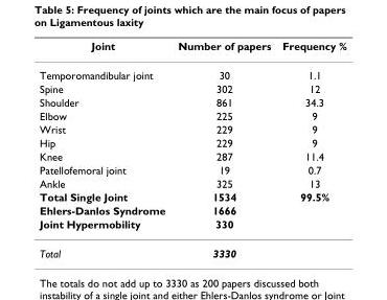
<table><thead><tr><td>Joint</td><td>Number of papers</td><td>Frequency %</td></tr></thead><tbody><tr><td>Temporomandibular joint</td><td>30</td><td>1.1</td></tr><tr><td>Spine</td><td>302</td><td>12</td></tr><tr><td>Shoulder</td><td>861</td><td>34.3</td></tr><tr><td>Elbow</td><td>225</td><td>9</td></tr><tr><td>Wrist</td><td>229</td><td>9</td></tr><tr><td>Hip</td><td>229</td><td>9</td></tr><tr><td>Knee</td><td>287</td><td>11.4</td></tr><tr><td>Patellofemoral joint</td><td>19</td><td>0.7</td></tr><tr><td>Ankle</td><td>325</td><td>13</td></tr><tr><td>Total Single Joint</td><td>1534</td><td>99.5%</td></tr><tr><td>Ehlers-Danlos Syndrome</td><td>1666</td><td></td></tr><tr><td>Joint Hypermobility</td><td>330</td><td></td></tr><tr><td>Total</td><td>3330</td><td></td></tr></tbody></table>